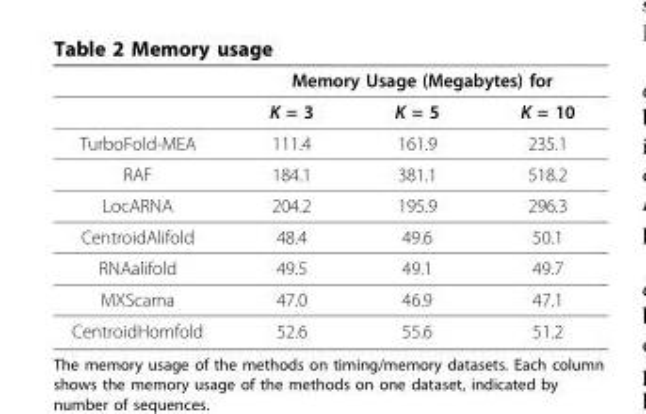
<table><thead><tr><td rowspan="2"></td><td colspan="3">Memory Usage (Megabytes) for</td></tr><tr><td>K = 3</td><td>K = 5</td><td>K = 10</td></tr></thead><tbody><tr><td>TurboFold-MEA</td><td>111.4</td><td>161.9</td><td>235.1</td></tr><tr><td>RAF</td><td>184.1</td><td>381.1</td><td>518.2</td></tr><tr><td>LocARNA</td><td>204.2</td><td>195.9</td><td>296.3</td></tr><tr><td>CentroidAlifold</td><td>48.4</td><td>49.6</td><td>50.1</td></tr><tr><td>RNAalifold</td><td>49.5</td><td>49.1</td><td>49.7</td></tr><tr><td>MXScarna</td><td>47.0</td><td>46.9</td><td>47.1</td></tr><tr><td>CentroidHomfold</td><td>52.6</td><td>55.6</td><td>51.2</td></tr></tbody></table>